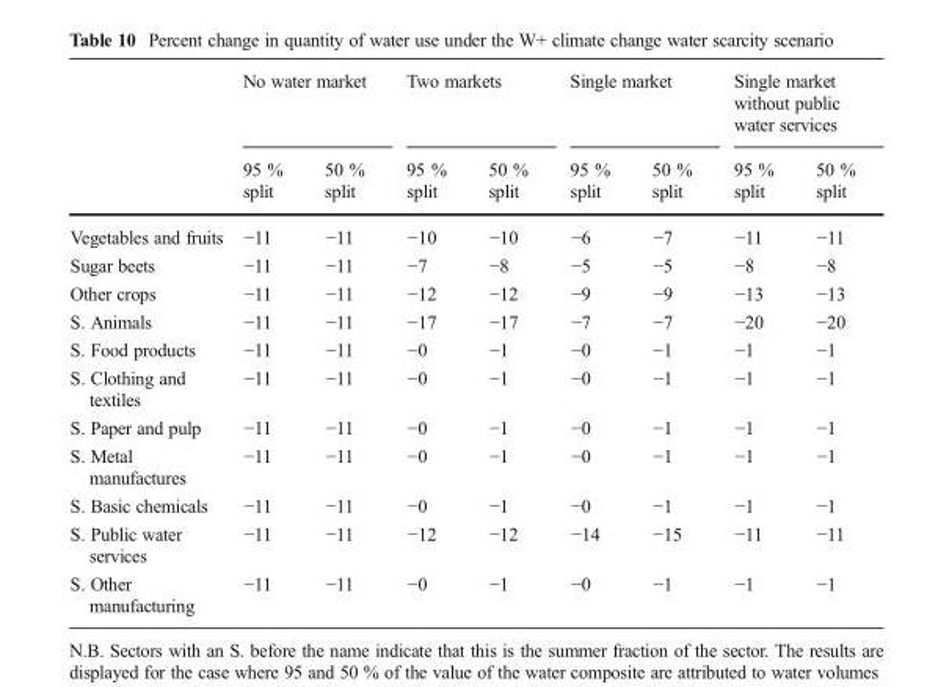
<table><thead><tr><td rowspan="2"></td><td colspan="2">No water market</td><td colspan="2">Two markets</td><td colspan="2">Single market</td><td colspan="2">Single market without public water services</td></tr><tr><td>95 % split</td><td>50 % split</td><td>95 % split</td><td>50 % split</td><td>95 % split</td><td>50 % split</td><td>95 % split</td><td>50 % split</td></tr></thead><tbody><tr><td>Vegetables and fruits</td><td>−11</td><td>−11</td><td>−10</td><td>−10</td><td>−6</td><td>−7</td><td>−11</td><td>−11</td></tr><tr><td>Sugar beets</td><td>−11</td><td>−11</td><td>−7</td><td>−8</td><td>−5</td><td>−5</td><td>−8</td><td>−8</td></tr><tr><td>Other crops</td><td>−11</td><td>−11</td><td>−12</td><td>−12</td><td>−9</td><td>−9</td><td>−13</td><td>−13</td></tr><tr><td>S. Animals</td><td>−11</td><td>−11</td><td>−17</td><td>−17</td><td>−7</td><td>−7</td><td>−20</td><td>−20</td></tr><tr><td>S. Food products</td><td>−11</td><td>−11</td><td>−0</td><td>−1</td><td>−0</td><td>−1</td><td>−1</td><td>−1</td></tr><tr><td>S. Clothing and textiles</td><td>−11</td><td>−11</td><td>−0</td><td>−1</td><td>−0</td><td>−1</td><td>−1</td><td>−1</td></tr><tr><td>S. Paper and pulp</td><td>−11</td><td>−11</td><td>−0</td><td>−1</td><td>−0</td><td>−1</td><td>−1</td><td>−1</td></tr><tr><td>S. Metal manufactures</td><td>−11</td><td>−11</td><td>−0</td><td>−1</td><td>−0</td><td>−1</td><td>−1</td><td>−1</td></tr><tr><td>S. Basic chemicals</td><td>−11</td><td>−11</td><td>−0</td><td>−1</td><td>−0</td><td>−1</td><td>−1</td><td>−1</td></tr><tr><td>S. Public water services</td><td>−11</td><td>−11</td><td>−12</td><td>−12</td><td>−14</td><td>−15</td><td>−11</td><td>−11</td></tr><tr><td>S. Other manufacturing</td><td>−11</td><td>−11</td><td>−0</td><td>−1</td><td>−0</td><td>−1</td><td>−1</td><td>−1</td></tr></tbody></table>